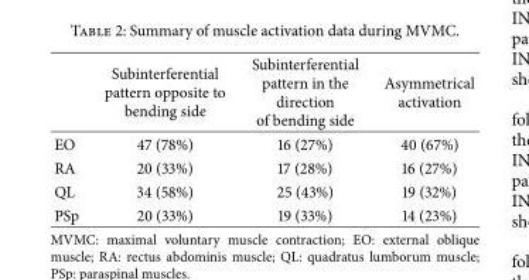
<table><thead><tr><td></td><td>Subinterferential pattern opposite to bending side</td><td>Subinterferential pattern in the direction of bending side</td><td>Asymmetrical activation</td></tr></thead><tbody><tr><td>EO</td><td>47 (78%)</td><td>16 (27%)</td><td>40 (67%)</td></tr><tr><td>RA</td><td>20 (33%)</td><td>17 (28%)</td><td>16 (27%)</td></tr><tr><td>QL</td><td>34 (58%)</td><td>25 (43%)</td><td>19 (32%)</td></tr><tr><td>PSp</td><td>20 (33%)</td><td>19 (33%)</td><td>14 (23%)</td></tr></tbody></table>